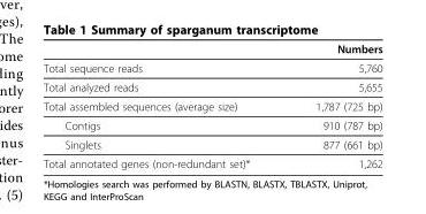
<table><thead><tr><td></td><td>Numbers</td></tr></thead><tbody><tr><td>Total sequence reads</td><td>5,760</td></tr><tr><td>Total analyzed reads</td><td>5,655</td></tr><tr><td>Total assembled sequences (average size)</td><td>1,787 (725 bp)</td></tr><tr><td>Contigs</td><td>910 (787 bp)</td></tr><tr><td>Singlets</td><td>877 (661 bp)</td></tr><tr><td>Total annotated genes (non-redundant set)*</td><td>1,262</td></tr></tbody></table>